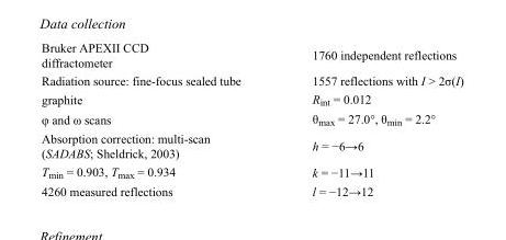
<table><tbody><tr><td>Bruker APEXII CCD diffractometer</td><td>1760 independent reflections</td></tr><tr><td>Radiation source: fine-focus sealed tube</td><td>1557 reflections with I &gt; 2σ(I)</td></tr><tr><td>graphite</td><td>R<sub>int</sub> = 0.012</td></tr><tr><td>φ and ω scans</td><td>θ<sub>max</sub> = 27.0°, θ<sub>min</sub> = 2.2°</td></tr><tr><td>Absorption correction: multi-scan (SADABS; Sheldrick, 2003)</td><td>h = −6→6</td></tr><tr><td>T<sub>min</sub> = 0.903, T<sub>max</sub> = 0.934</td><td>k = −11→11</td></tr><tr><td>4260 measured reflections</td><td>l = −12→12</td></tr></tbody></table>